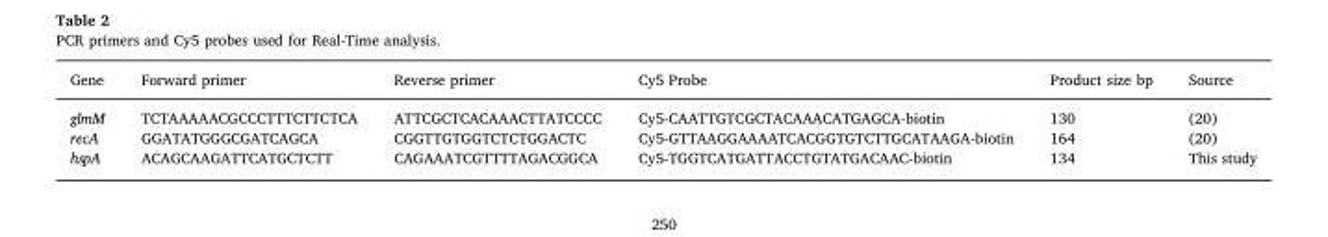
<table><thead><tr><td>Gene</td><td>Forward primer</td><td>Reverse primer</td><td>Cy5 Probe</td><td>Product size bp</td><td>Source</td></tr></thead><tbody><tr><td>glmM</td><td>TCTAAAAACGCCCTTTCTTCTCA</td><td>ATTCGCTCACAAACTTATCCCC</td><td>Cy5-CAATTGTCGCTACAAACATGAGCA-biotin</td><td>130</td><td>(20)</td></tr><tr><td>recA</td><td>GGATATGGGCGATCAGCA</td><td>CGGTTGTGGTCTCTGGACTC</td><td>Cy5-GTTAAGGAAAATCACGGTGTCTTGCATAAGA-biotin</td><td>164</td><td>(20)</td></tr><tr><td>hspA</td><td>ACAGCAAGATTCATGCTCTT</td><td>CAGAAATCGTTTTAGACGGCA</td><td>Cy5-TGGTCATGATTACCTGTATGACAAC-biotin</td><td>134</td><td>This study</td></tr></tbody></table>